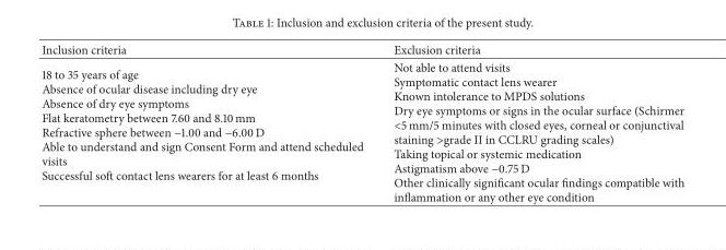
<table><thead><tr><td>Inclusion criteria</td><td>Exclusion criteria</td></tr></thead><tbody><tr><td>18 to 35 years of age Absence of ocular disease including dry eye Absence of dry eye symptoms Flat keratometry between 7.60 and 8.10 mm Refractive sphere between −1.00 and −6.00 D Able to understand and sign Consent Form and attend scheduled visits Successful soft contact lens wearers for at least 6 months</td><td>Not able to attend visits Symptomatic contact lens wearer Known intolerance to MPDS solutions Dry eye symptoms or signs in the ocular surface (Schirmer &lt;5 mm/5 minutes with closed eyes, corneal or conjunctival staining &gt;grade II in CCLRU grading scales) Taking topical or systemic medication Astigmatism above −0.75 D Other clinically significant ocular findings compatible with inflammation or any other eye condition</td></tr></tbody></table>